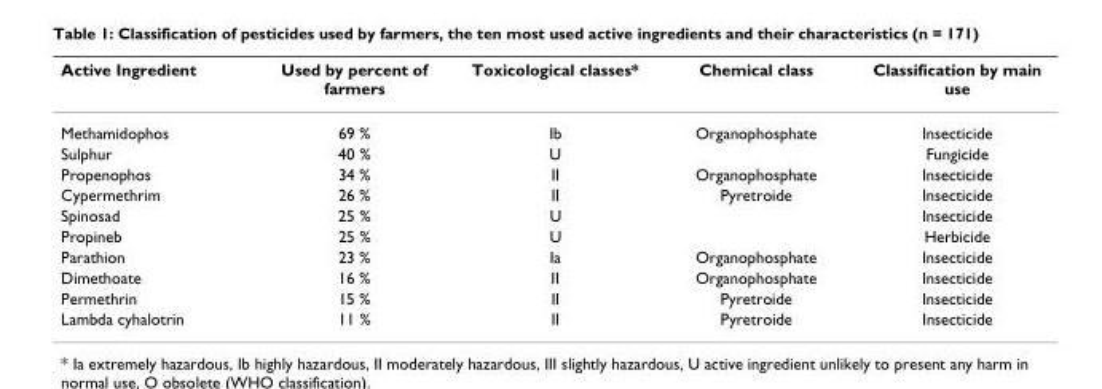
<table><thead><tr><td>Active Ingredient</td><td>Used by percent of farmers</td><td>Toxicological classes*</td><td>Chemical class</td><td>Classification by main use</td></tr></thead><tbody><tr><td>Methamidophos</td><td>69 %</td><td>Ib</td><td>Organophosphate</td><td>Insecticide</td></tr><tr><td>Sulphur</td><td>40 %</td><td>U</td><td></td><td>Fungicide</td></tr><tr><td>Propenophos</td><td>34 %</td><td>II</td><td>Organophosphate</td><td>Insecticide</td></tr><tr><td>Cypermethrim</td><td>26 %</td><td>II</td><td>Pyretroide</td><td>Insecticide</td></tr><tr><td>Spinosad</td><td>25 %</td><td>U</td><td></td><td>Insecticide</td></tr><tr><td>Propineb</td><td>25 %</td><td>U</td><td></td><td>Herbicide</td></tr><tr><td>Parathion</td><td>23 %</td><td>Ia</td><td>Organophosphate</td><td>Insecticide</td></tr><tr><td>Dimethoate</td><td>16 %</td><td>II</td><td>Organophosphate</td><td>Insecticide</td></tr><tr><td>Permethrin</td><td>15 %</td><td>II</td><td>Pyretroide</td><td>Insecticide</td></tr><tr><td>Lambda cyhalotrin</td><td>11 %</td><td>II</td><td>Pyretroide</td><td>Insecticide</td></tr></tbody></table>